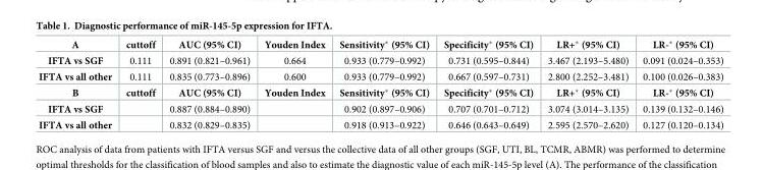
<table><tbody><tr><td>A</td><td>cuttoff</td><td>AUC (95% CI)</td><td>Youden Index</td><td>Sensitivity* (95% CI)</td><td>Specificity* (95% CI)</td><td>LR+* (95% CI)</td><td>LR-* (95% CI)</td></tr><tr><td>IFTA vs SGF</td><td>0.111</td><td>0.891 (0.821–0.961)</td><td>0.664</td><td>0.933 (0.779–0.992)</td><td>0.731 (0.595–0.844)</td><td>3.467 (2.193–5.480)</td><td>0.091 (0.024–0.353)</td></tr><tr><td>IFTA vs all other</td><td>0.111</td><td>0.835 (0.773–0.896)</td><td>0.600</td><td>0.933 (0.779–0.992)</td><td>0.667 (0.597–0.731)</td><td>2.800 (2.252–3.481)</td><td>0.100 (0.026–0.383)</td></tr><tr><td>B</td><td>cuttoff</td><td>AUC (95% CI)</td><td>Youden Index</td><td>Sensitivity* (95% CI)</td><td>Specificity* (95% CI)</td><td>LR+* (95% CI)</td><td>LR-* (95% CI)</td></tr><tr><td>IFTA vs SGF</td><td></td><td>0.887 (0.884–0.890)</td><td></td><td>0.902 (0.897–0.906)</td><td>0.707 (0.701–0.712)</td><td>3.074 (3.014–3.135)</td><td>0.139 (0.132–0.146)</td></tr><tr><td>IFTA vs all other</td><td></td><td>0.832 (0.829–0.835)</td><td></td><td>0.918 (0.913–0.922)</td><td>0.646 (0.643–0.649)</td><td>2.595 (2.570–2.620)</td><td>0.127 (0.120–0.134)</td></tr></tbody></table>